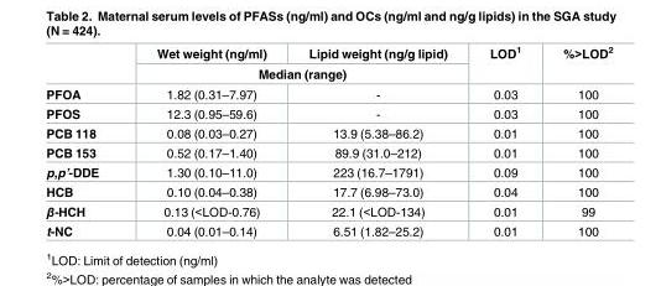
<table><thead><tr><td rowspan="2"></td><td>Wet weight (ng/ml)</td><td>Lipid weight (ng/g lipid)</td><td rowspan="2">LOD<sup>1</sup></td><td rowspan="2">%&gt;LOD<sup>2</sup></td></tr><tr><td colspan="2">Median (range)</td></tr></thead><tbody><tr><td>PFOA</td><td>1.82 (0.31–7.97)</td><td>-</td><td>0.03</td><td>100</td></tr><tr><td>PFOS</td><td>12.3 (0.95–59.6)</td><td>-</td><td>0.03</td><td>100</td></tr><tr><td>PCB 118</td><td>0.08 (0.03–0.27)</td><td>13.9 (5.38–86.2)</td><td>0.01</td><td>100</td></tr><tr><td>PCB 153</td><td>0.52 (0.17–1.40)</td><td>89.9 (31.0–212)</td><td>0.01</td><td>100</td></tr><tr><td>p,p’-DDE</td><td>1.30 (0.10–11.0)</td><td>223 (16.7–1791)</td><td>0.09</td><td>100</td></tr><tr><td>HCB</td><td>0.10 (0.04–0.38)</td><td>17.7 (6.98–73.0)</td><td>0.04</td><td>100</td></tr><tr><td>β-HCH</td><td>0.13 (&lt;LOD-0.76)</td><td>22.1 (&lt;LOD-134)</td><td>0.01</td><td>99</td></tr><tr><td>t-NC</td><td>0.04 (0.01–0.14)</td><td>6.51 (1.82–25.2)</td><td>0.01</td><td>100</td></tr></tbody></table>